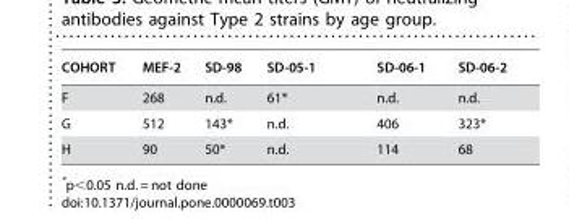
<table><thead><tr><td>COHORT</td><td>MEF-2</td><td>SD-98</td><td>SD-05-1</td><td>SD-06-1</td><td>SD-06-2</td></tr></thead><tbody><tr><td>F</td><td>268</td><td>n.d.</td><td>61*</td><td>n.d.</td><td>n.d.</td></tr><tr><td>G</td><td>512</td><td>143*</td><td>n.d.</td><td>406</td><td>323*</td></tr><tr><td>H</td><td>90</td><td>50*</td><td>n.d.</td><td>114</td><td>68</td></tr></tbody></table>